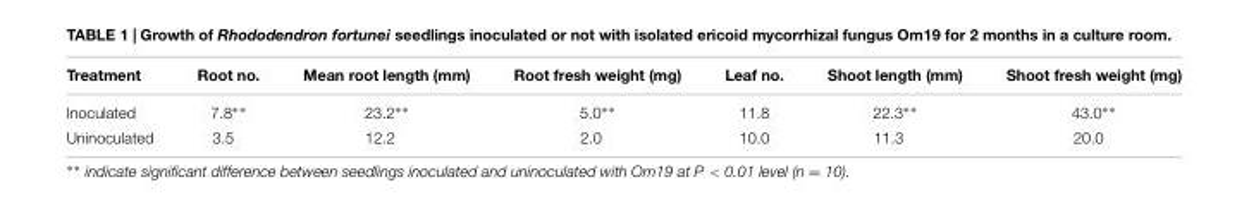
<table><thead><tr><td>Treatment</td><td>Root no.</td><td>Mean root length (mm)</td><td>Root fresh weight (mg)</td><td>Leaf no.</td><td>Shoot length (mm)</td><td>Shoot fresh weight (mg)</td></tr></thead><tbody><tr><td>Inoculated</td><td>7.8∗∗</td><td>23.2∗∗</td><td>5.0∗∗</td><td>11.8</td><td>22.3∗∗</td><td>43.0∗∗</td></tr><tr><td>Uninoculated</td><td>3.5</td><td>12.2</td><td>2.0</td><td>10.0</td><td>11.3</td><td>20.0</td></tr></tbody></table>